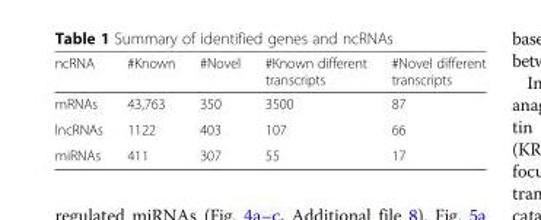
<table><thead><tr><td>ncRNA</td><td>#Known</td><td>#Novel</td><td>#Known different transcripts</td><td>#Novel different transcripts</td></tr></thead><tbody><tr><td>mRNAs</td><td>43,763</td><td>350</td><td>3500</td><td>87</td></tr><tr><td>lncRNAs</td><td>1122</td><td>403</td><td>107</td><td>66</td></tr><tr><td>miRNAs</td><td>411</td><td>307</td><td>55</td><td>17</td></tr></tbody></table>